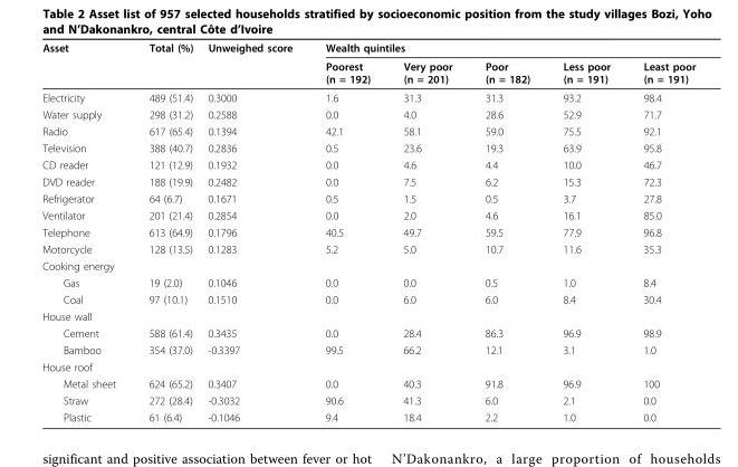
<table><thead><tr><td rowspan="2">Asset</td><td rowspan="2">Total (%)</td><td rowspan="2">Unweighed score</td><td colspan="5">Wealth quintiles</td></tr><tr><td>Poorest (n = 192)</td><td>Very poor (n = 201)</td><td>Poor (n = 182)</td><td>Less poor (n = 191)</td><td>Least poor (n = 191)</td></tr></thead><tbody><tr><td>Electricity</td><td>489 (51.4)</td><td>0.3000</td><td>1.6</td><td>31.3</td><td>31.3</td><td>93.2</td><td>98.4</td></tr><tr><td>Water supply</td><td>298 (31.2)</td><td>0.2588</td><td>0.0</td><td>4.0</td><td>28.6</td><td>52.9</td><td>71.7</td></tr><tr><td>Radio</td><td>617 (65.4)</td><td>0.1394</td><td>42.1</td><td>58.1</td><td>59.0</td><td>75.5</td><td>92.1</td></tr><tr><td>Television</td><td>388 (40.7)</td><td>0.2836</td><td>0.5</td><td>23.6</td><td>19.3</td><td>63.9</td><td>95.8</td></tr><tr><td>CD reader</td><td>121 (12.9)</td><td>0.1932</td><td>0.0</td><td>4.6</td><td>4.4</td><td>10.0</td><td>46.7</td></tr><tr><td>DVD reader</td><td>188 (19.9)</td><td>0.2482</td><td>0.0</td><td>7.5</td><td>6.2</td><td>15.3</td><td>72.3</td></tr><tr><td>Refrigerator</td><td>64 (6.7)</td><td>0.1671</td><td>0.5</td><td>1.5</td><td>0.5</td><td>3.7</td><td>27.8</td></tr><tr><td>Ventilator</td><td>201 (21.4)</td><td>0.2854</td><td>0.0</td><td>2.0</td><td>4.6</td><td>16.1</td><td>85.0</td></tr><tr><td>Telephone</td><td>613 (64.9)</td><td>0.1796</td><td>40.5</td><td>49.7</td><td>59.5</td><td>77.9</td><td>96.8</td></tr><tr><td>Motorcycle</td><td>128 (13.5)</td><td>0.1283</td><td>5.2</td><td>5.0</td><td>10.7</td><td>11.6</td><td>35.3</td></tr><tr><td colspan="8">Cooking energy</td></tr><tr><td>Gas</td><td>19 (2.0)</td><td>0.1046</td><td>0.0</td><td>0.0</td><td>0.5</td><td>1.0</td><td>8.4</td></tr><tr><td>Coal</td><td>97 (10.1)</td><td>0.1510</td><td>0.0</td><td>6.0</td><td>6.0</td><td>8.4</td><td>30.4</td></tr><tr><td colspan="8">House wall</td></tr><tr><td>Cement</td><td>588 (61.4)</td><td>0.3435</td><td>0.0</td><td>28.4</td><td>86.3</td><td>96.9</td><td>98.9</td></tr><tr><td>Bamboo</td><td>354 (37.0)</td><td>-0.3397</td><td>99.5</td><td>66.2</td><td>12.1</td><td>3.1</td><td>1.0</td></tr><tr><td colspan="8">House roof</td></tr><tr><td>Metal sheet</td><td>624 (65.2)</td><td>0.3407</td><td>0.0</td><td>40.3</td><td>91.8</td><td>96.9</td><td>100</td></tr><tr><td>Straw</td><td>272 (28.4)</td><td>-0.3032</td><td>90.6</td><td>41.3</td><td>6.0</td><td>2.1</td><td>0.0</td></tr><tr><td>Plastic</td><td>61 (6.4)</td><td>-0.1046</td><td>9.4</td><td>18.4</td><td>2.2</td><td>1.0</td><td>0.0</td></tr></tbody></table>